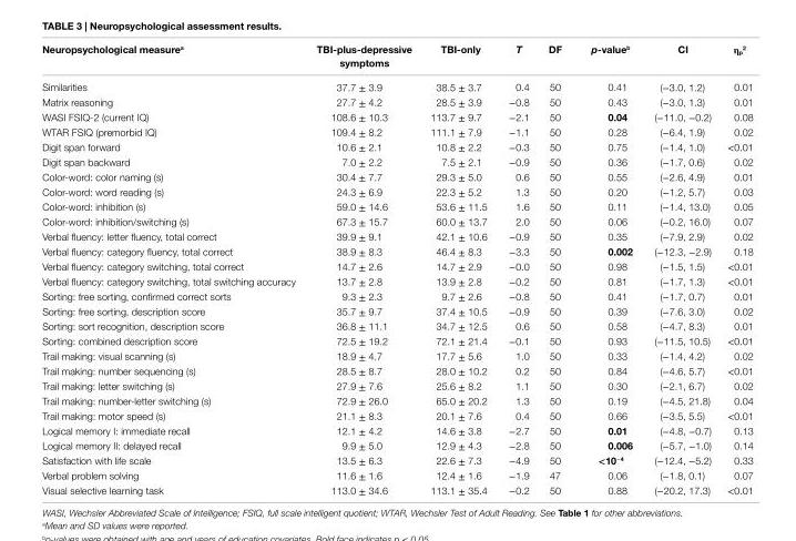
<table><thead><tr><td>neuropsychological measure<sup>a</sup></td><td>TBi-plus-depressive symptoms</td><td>TBi-only</td><td>T</td><td>DF</td><td>p-value<sup>b</sup></td><td>ci</td><td>η<sub>p</sub><sup>2</sup></td></tr></thead><tbody><tr><td>Similarities</td><td>37.7 ± 3.9</td><td>38.5 ± 3.7</td><td>0.4</td><td>50</td><td>0.41</td><td>(−3.0, 1.2)</td><td>0.01</td></tr><tr><td>Matrix reasoning</td><td>27.7 ± 4.2</td><td>28.5 ± 3.9</td><td>−0.8</td><td>50</td><td>0.43</td><td>(−3.0, 1.3)</td><td>0.01</td></tr><tr><td>WASI FSIQ-2 (current IQ)</td><td>108.6 ± 10.3</td><td>113.7 ± 9.7</td><td>−2.1</td><td>50</td><td>0.04</td><td>(−11.0, −0.2)</td><td>0.08</td></tr><tr><td>WTAR FSIQ (premorbid IQ)</td><td>109.4 ± 8.2</td><td>111.1 ± 7.9</td><td>−1.1</td><td>50</td><td>0.28</td><td>(−6.4, 1.9)</td><td>0.02</td></tr><tr><td>Digit span forward</td><td>10.6 ± 2.1</td><td>10.8 ± 2.2</td><td>−0.3</td><td>50</td><td>0.75</td><td>(−1.4, 1.0)</td><td>&lt;0.01</td></tr><tr><td>Digit span backward</td><td>7.0 ± 2.2</td><td>7.5 ± 2.1</td><td>−0.9</td><td>50</td><td>0.36</td><td>(−1.7, 0.6)</td><td>0.02</td></tr><tr><td>Color-word: color naming (s)</td><td>30.4 ± 7.7</td><td>29.3 ± 5.0</td><td>0.6</td><td>50</td><td>0.55</td><td>(−2.6, 4.9)</td><td>0.01</td></tr><tr><td>Color-word: word reading (s)</td><td>24.3 ± 6.9</td><td>22.3 ± 5.2</td><td>1.3</td><td>50</td><td>0.20</td><td>(−1.2, 5.7)</td><td>0.03</td></tr><tr><td>Color-word: inhibition (s)</td><td>59.0 ± 14.6</td><td>53.6 ± 11.5</td><td>1.6</td><td>50</td><td>0.11</td><td>(−1.4, 13.0)</td><td>0.05</td></tr><tr><td>Color-word: inhibition/switching (s)</td><td>67.3 ± 15.7</td><td>60.0 ± 13.7</td><td>2.0</td><td>50</td><td>0.06</td><td>(−0.2, 16.0)</td><td>0.07</td></tr><tr><td>Verbal fluency: letter fluency, total correct</td><td>39.9 ± 9.1</td><td>42.1 ± 10.6</td><td>−0.9</td><td>50</td><td>0.35</td><td>(−7.9, 2.9)</td><td>0.02</td></tr><tr><td>Verbal fluency: category fluency, total correct</td><td>38.9 ± 8.3</td><td>46.4 ± 8.3</td><td>−3.3</td><td>50</td><td>0.002</td><td>(−12.3, −2.9)</td><td>0.18</td></tr><tr><td>Verbal fluency: category switching, total correct</td><td>14.7 ± 2.6</td><td>14.7 ± 2.9</td><td>−0.0</td><td>50</td><td>0.98</td><td>(−1.5, 1.5)</td><td>&lt;0.01</td></tr><tr><td>Verbal fluency: category switching, total switching accuracy</td><td>13.7 ± 2.8</td><td>13.9 ± 2.8</td><td>−0.2</td><td>50</td><td>0.81</td><td>(−1.7, 1.3)</td><td>&lt;0.01</td></tr><tr><td>Sorting: free sorting, confirmed correct sorts</td><td>9.3 ± 2.3</td><td>9.7 ± 2.6</td><td>−0.8</td><td>50</td><td>0.41</td><td>(−1.7, 0.7)</td><td>0.01</td></tr><tr><td>Sorting: free sorting, description score</td><td>35.7 ± 9.7</td><td>37.4 ± 10.5</td><td>−0.9</td><td>50</td><td>0.39</td><td>(−7.6, 3.0)</td><td>0.02</td></tr><tr><td>Sorting: sort recognition, description score</td><td>36.8 ± 11.1</td><td>34.7 ± 12.5</td><td>0.6</td><td>50</td><td>0.58</td><td>(−4.7, 8.3)</td><td>0.01</td></tr><tr><td>Sorting: combined description score</td><td>72.5 ± 19.2</td><td>72.1 ± 21.4</td><td>−0.1</td><td>50</td><td>0.93</td><td>(−11.5, 10.5)</td><td>&lt;0.01</td></tr><tr><td>Trail making: visual scanning (s)</td><td>18.9 ± 4.7</td><td>17.7 ± 5.6</td><td>1.0</td><td>50</td><td>0.33</td><td>(−1.4, 4.2)</td><td>0.02</td></tr><tr><td>Trail making: number sequencing (s)</td><td>28.5 ± 8.7</td><td>28.0 ± 10.2</td><td>0.2</td><td>50</td><td>0.84</td><td>(−4.6, 5.7)</td><td>&lt;0.01</td></tr><tr><td>Trail making: letter switching (s)</td><td>27.9 ± 7.6</td><td>25.6 ± 8.2</td><td>1.1</td><td>50</td><td>0.30</td><td>(−2.1, 6.7)</td><td>0.02</td></tr><tr><td>Trail making: number-letter switching (s)</td><td>72.9 ± 26.0</td><td>65.0 ± 20.2</td><td>1.3</td><td>50</td><td>0.19</td><td>(−4.5, 21.8)</td><td>0.04</td></tr><tr><td>Trail making: motor speed (s)</td><td>21.1 ± 8.3</td><td>20.1 ± 7.6</td><td>0.4</td><td>50</td><td>0.66</td><td>(−3.5, 5.5)</td><td>&lt;0.01</td></tr><tr><td>Logical memory I: immediate recall</td><td>12.1 ± 4.2</td><td>14.6 ± 3.8</td><td>−2.7</td><td>50</td><td>0.01</td><td>(−4.8, −0.7)</td><td>0.13</td></tr><tr><td>Logical memory II: delayed recall</td><td>9.9 ± 5.0</td><td>12.9 ± 4.3</td><td>−2.8</td><td>50</td><td>0.006</td><td>(−5.7, −1.0)</td><td>0.14</td></tr><tr><td>Satisfaction with life scale</td><td>13.5 ± 6.3</td><td>22.6 ± 7.3</td><td>−4.9</td><td>50</td><td>&lt;10−4</td><td>(−12.4, −5.2)</td><td>0.33</td></tr><tr><td>Verbal problem solving</td><td>11.6 ± 1.6</td><td>12.4 ± 1.6</td><td>−1.9</td><td>47</td><td>0.06</td><td>(−1.8, 0.1)</td><td>0.07</td></tr><tr><td>Visual selective learning task</td><td>113.0 ± 34.6</td><td>113.1 ± 35.4</td><td>−0.2</td><td>50</td><td>0.88</td><td>(−20.2, 17.3)</td><td>&lt;0.01</td></tr></tbody></table>